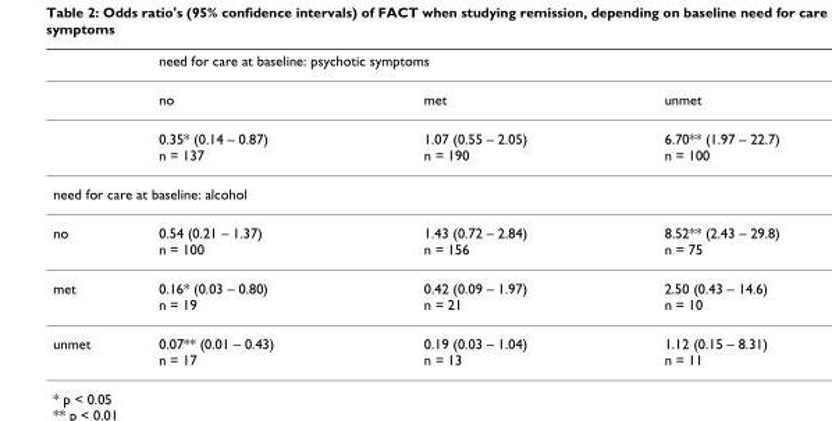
<table><thead><tr><td rowspan="2"></td><td colspan="3">need for care at baseline: psychotic symptoms</td></tr><tr><td>no</td><td>met</td><td>unmet</td></tr></thead><tbody><tr><td></td><td>0.35* (0.14 – 0.87) n = 137</td><td>1.07 (0.55 – 2.05) n = 190</td><td>6.70** (1.97 – 22.7) n = 100</td></tr><tr><td colspan="4">need for care at baseline: alcohol</td></tr><tr><td>no</td><td>0.54 (0.21 – 1.37) n = 100</td><td>1.43 (0.72 – 2.84) n = 156</td><td>8.52** (2.43 – 29.8) n = 75</td></tr><tr><td>met</td><td>0.16* (0.03 – 0.80) n = 19</td><td>0.42 (0.09 – 1.97) n = 21</td><td>2.50 (0.43 – 14.6) n = 10</td></tr><tr><td>unmet</td><td>0.07** (0.01 – 0.43) n = 17</td><td>0.19 (0.03 – 1.04) n = 13</td><td>1.12 (0.15 – 8.31) n = 11</td></tr></tbody></table>